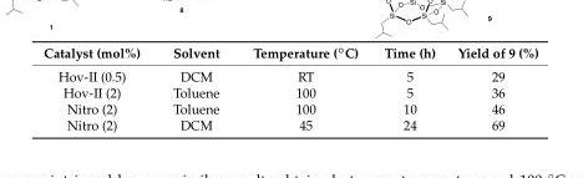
<table><thead><tr><td>Catalyst (mol%)</td><td>Solvent</td><td>Temperature (◦C)</td><td>Time (h)</td><td>Yield of 9 (%)</td></tr></thead><tbody><tr><td>Hov-II (0.5)</td><td>DCM</td><td>RT</td><td>5</td><td>29</td></tr><tr><td>Hov-II (2)</td><td>Toluene</td><td>100</td><td>5</td><td>36</td></tr><tr><td>Nitro (2)</td><td>Toluene</td><td>100</td><td>10</td><td>46</td></tr><tr><td>Nitro (2)</td><td>DCM</td><td>45</td><td>24</td><td>69</td></tr></tbody></table>